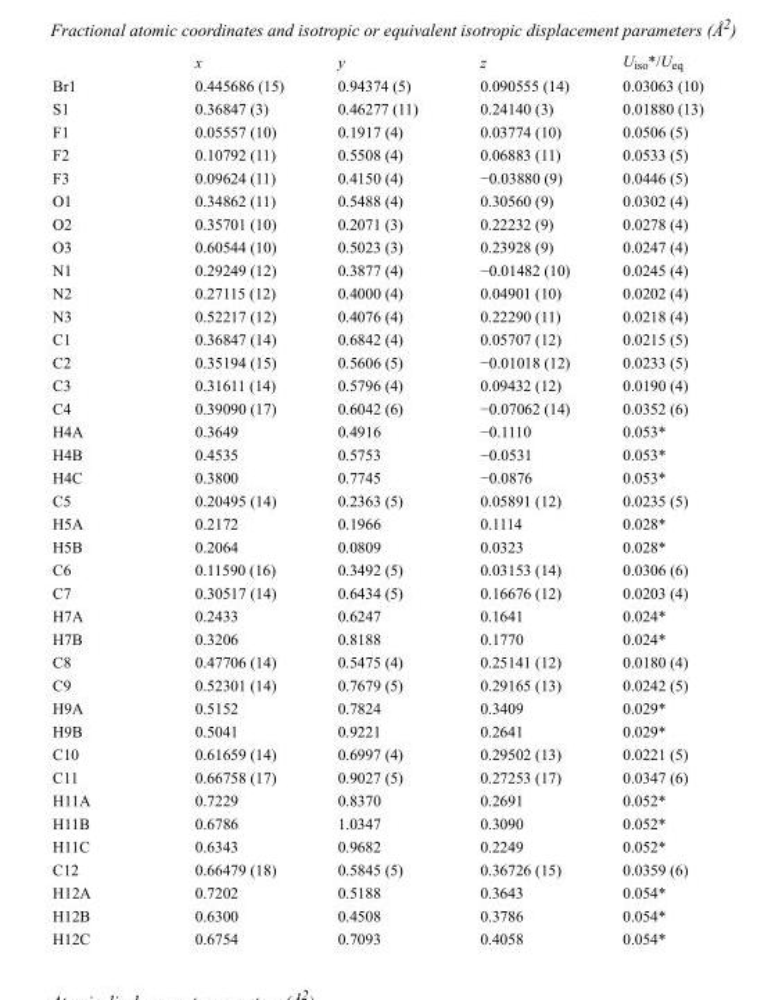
<table><thead><tr><td></td><td>x</td><td>y</td><td>z</td><td>U<sub>iso</sub>*/U<sub>eq</sub></td></tr></thead><tbody><tr><td>Br1</td><td>0.445686 (15)</td><td>0.94374 (5)</td><td>0.090555 (14)</td><td>0.03063 (10)</td></tr><tr><td>S1</td><td>0.36847 (3)</td><td>0.46277 (11)</td><td>0.24140 (3)</td><td>0.01880 (13)</td></tr><tr><td>F1</td><td>0.05557 (10)</td><td>0.1917 (4)</td><td>0.03774 (10)</td><td>0.0506 (5)</td></tr><tr><td>F2</td><td>0.10792 (11)</td><td>0.5508 (4)</td><td>0.06883 (11)</td><td>0.0533 (5)</td></tr><tr><td>F3</td><td>0.09624 (11)</td><td>0.4150 (4)</td><td>−0.03880 (9)</td><td>0.0446 (5)</td></tr><tr><td>O1</td><td>0.34862 (11)</td><td>0.5488 (4)</td><td>0.30560 (9)</td><td>0.0302 (4)</td></tr><tr><td>O2</td><td>0.35701 (10)</td><td>0.2071 (3)</td><td>0.22232 (9)</td><td>0.0278 (4)</td></tr><tr><td>O3</td><td>0.60544 (10)</td><td>0.5023 (3)</td><td>0.23928 (9)</td><td>0.0247 (4)</td></tr><tr><td>N1</td><td>0.29249 (12)</td><td>0.3877 (4)</td><td>−0.01482 (10)</td><td>0.0245 (4)</td></tr><tr><td>N2</td><td>0.27115 (12)</td><td>0.4000 (4)</td><td>0.04901 (10)</td><td>0.0202 (4)</td></tr><tr><td>N3</td><td>0.52217 (12)</td><td>0.4076 (4)</td><td>0.22290 (11)</td><td>0.0218 (4)</td></tr><tr><td>C1</td><td>0.36847 (14)</td><td>0.6842 (4)</td><td>0.05707 (12)</td><td>0.0215 (5)</td></tr><tr><td>C2</td><td>0.35194 (15)</td><td>0.5606 (5)</td><td>−0.01018 (12)</td><td>0.0233 (5)</td></tr><tr><td>C3</td><td>0.31611 (14)</td><td>0.5796 (4)</td><td>0.09432 (12)</td><td>0.0190 (4)</td></tr><tr><td>C4</td><td>0.39090 (17)</td><td>0.6042 (6)</td><td>−0.07062 (14)</td><td>0.0352 (6)</td></tr><tr><td>H4A</td><td>0.3649</td><td>0.4916</td><td>−0.1110</td><td>0.053*</td></tr><tr><td>H4B</td><td>0.4535</td><td>0.5753</td><td>−0.0531</td><td>0.053*</td></tr><tr><td>H4C</td><td>0.3800</td><td>0.7745</td><td>−0.0876</td><td>0.053*</td></tr><tr><td>C5</td><td>0.20495 (14)</td><td>0.2363 (5)</td><td>0.05891 (12)</td><td>0.0235 (5)</td></tr><tr><td>H5A</td><td>0.2172</td><td>0.1966</td><td>0.1114</td><td>0.028*</td></tr><tr><td>H5B</td><td>0.2064</td><td>0.0809</td><td>0.0323</td><td>0.028*</td></tr><tr><td>C6</td><td>0.11590 (16)</td><td>0.3492 (5)</td><td>0.03153 (14)</td><td>0.0306 (6)</td></tr><tr><td>C7</td><td>0.30517 (14)</td><td>0.6434 (5)</td><td>0.16676 (12)</td><td>0.0203 (4)</td></tr><tr><td>H7A</td><td>0.2433</td><td>0.6247</td><td>0.1641</td><td>0.024*</td></tr><tr><td>H7B</td><td>0.3206</td><td>0.8188</td><td>0.1770</td><td>0.024*</td></tr><tr><td>C8</td><td>0.47706 (14)</td><td>0.5475 (4)</td><td>0.25141 (12)</td><td>0.0180 (4)</td></tr><tr><td>C9</td><td>0.52301 (14)</td><td>0.7679 (5)</td><td>0.29165 (13)</td><td>0.0242 (5)</td></tr><tr><td>H9A</td><td>0.5152</td><td>0.7824</td><td>0.3409</td><td>0.029*</td></tr><tr><td>H9B</td><td>0.5041</td><td>0.9221</td><td>0.2641</td><td>0.029*</td></tr><tr><td>C10</td><td>0.61659 (14)</td><td>0.6997 (4)</td><td>0.29502 (13)</td><td>0.0221 (5)</td></tr><tr><td>C11</td><td>0.66758 (17)</td><td>0.9027 (5)</td><td>0.27253 (17)</td><td>0.0347 (6)</td></tr><tr><td>H11A</td><td>0.7229</td><td>0.8370</td><td>0.2691</td><td>0.052*</td></tr><tr><td>H11B</td><td>0.6786</td><td>1.0347</td><td>0.3090</td><td>0.052*</td></tr><tr><td>H11C</td><td>0.6343</td><td>0.9682</td><td>0.2249</td><td>0.052*</td></tr><tr><td>C12</td><td>0.66479 (18)</td><td>0.5845 (5)</td><td>0.36726 (15)</td><td>0.0359 (6)</td></tr><tr><td>H12A</td><td>0.7202</td><td>0.5188</td><td>0.3643</td><td>0.054*</td></tr><tr><td>H12B</td><td>0.6300</td><td>0.4508</td><td>0.3786</td><td>0.054*</td></tr><tr><td>H12C</td><td>0.6754</td><td>0.7093</td><td>0.4058</td><td>0.054*</td></tr></tbody></table>